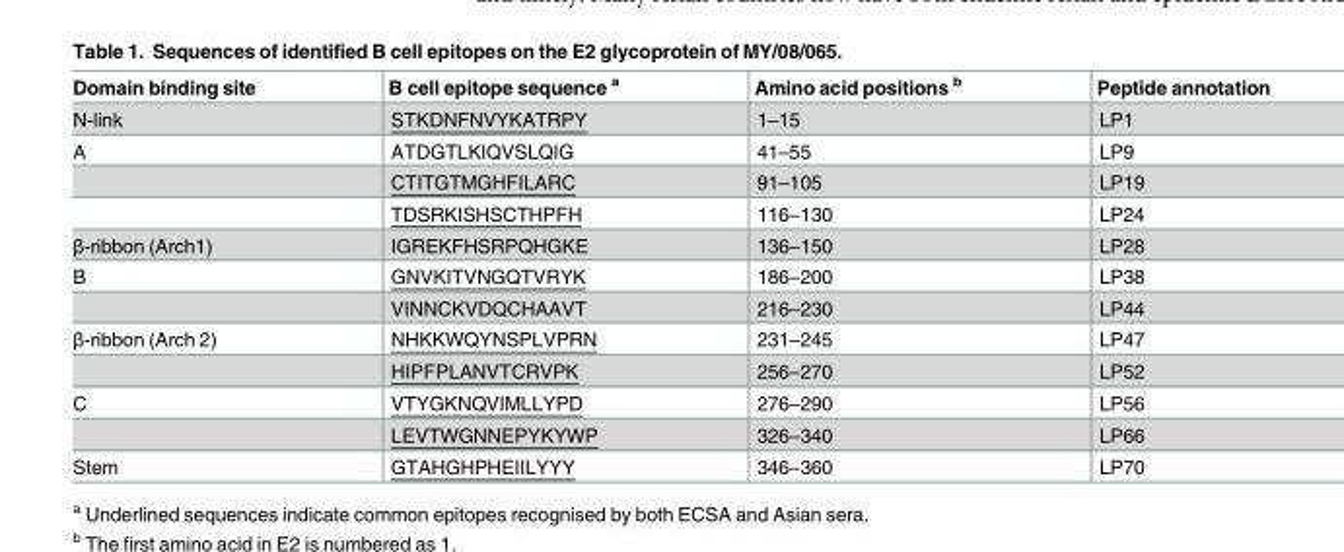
<table><thead><tr><td>Domain binding site</td><td>B cell epitope sequence <sup>a</sup></td><td>Amino acid positions <sup>b</sup></td><td>Peptide annotation</td></tr></thead><tbody><tr><td>N-link</td><td>STKDNFNVYKATRPY</td><td>1–15</td><td>LP1</td></tr><tr><td rowspan="3">A</td><td>ATDGTLKIQVSLQIG</td><td>41–55</td><td>LP9</td></tr><tr><td>CTITGTMGHFILARC</td><td>91–105</td><td>LP19</td></tr><tr><td>TDSRKISHSCTHPFH</td><td>116–130</td><td>LP24</td></tr><tr><td>β-ribbon (Arch1)</td><td>IGREKFHSRPQHGKE</td><td>136–150</td><td>LP28</td></tr><tr><td rowspan="2">B</td><td>GNVKITVNGQTVRYK</td><td>186–200</td><td>LP38</td></tr><tr><td>VINNCKVDQCHAAVT</td><td>216–230</td><td>LP44</td></tr><tr><td rowspan="2">β-ribbon (Arch 2)</td><td>NHKKWQYNSPLVPRN</td><td>231–245</td><td>LP47</td></tr><tr><td>HIPFPLANVTCRVPK</td><td>256–270</td><td>LP52</td></tr><tr><td rowspan="2">C</td><td>VTYGKNQVIMLLYPD</td><td>276–290</td><td>LP56</td></tr><tr><td>LEVTWGNNEPYKYWP</td><td>326–340</td><td>LP66</td></tr><tr><td>Stem</td><td>GTAHGHPHEIILYYY</td><td>346–360</td><td>LP70</td></tr></tbody></table>